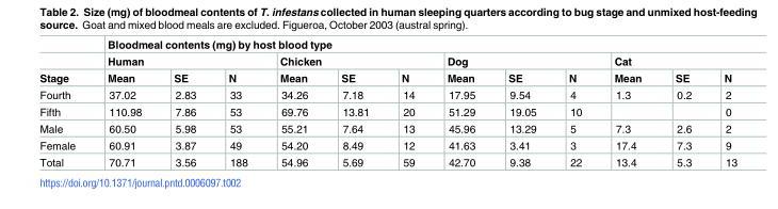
<table><thead><tr><td rowspan="3">Stage</td><td colspan="12">Bloodmeal contents (mg) by host blood type</td></tr><tr><td colspan="3">Human</td><td colspan="3">Chicken</td><td colspan="3">Dog</td><td colspan="3">Cat</td></tr><tr><td>Mean</td><td>SE</td><td>N</td><td>Mean</td><td>SE</td><td>N</td><td>Mean</td><td>SE</td><td>N</td><td>Mean</td><td>SE</td><td>N</td></tr></thead><tbody><tr><td>Fourth</td><td>37.02</td><td>2.83</td><td>33</td><td>34.26</td><td>7.18</td><td>14</td><td>17.95</td><td>9.54</td><td>4</td><td>1.3</td><td>0.2</td><td>2</td></tr><tr><td>Fifth</td><td>110.98</td><td>7.86</td><td>53</td><td>69.76</td><td>13.81</td><td>20</td><td>51.29</td><td>19.05</td><td>10</td><td></td><td></td><td>0</td></tr><tr><td>Male</td><td>60.50</td><td>5.98</td><td>53</td><td>55.21</td><td>7.64</td><td>13</td><td>45.96</td><td>13.29</td><td>5</td><td>7.3</td><td>2.6</td><td>2</td></tr><tr><td>Female</td><td>60.91</td><td>3.87</td><td>49</td><td>54.20</td><td>8.49</td><td>12</td><td>41.63</td><td>3.41</td><td>3</td><td>17.4</td><td>7.3</td><td>9</td></tr><tr><td>Total</td><td>70.71</td><td>3.56</td><td>188</td><td>54.96</td><td>5.69</td><td>59</td><td>42.70</td><td>9.38</td><td>22</td><td>13.4</td><td>5.3</td><td>13</td></tr></tbody></table>